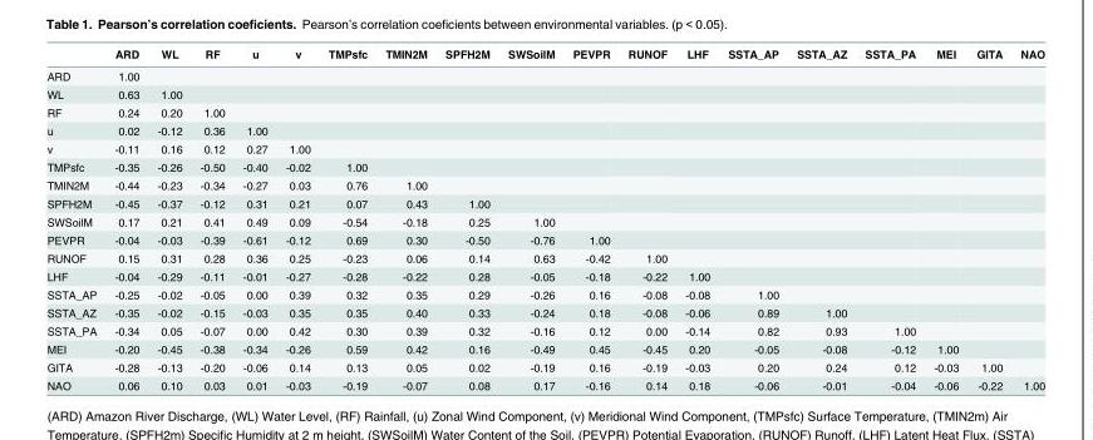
<table><thead><tr><td></td><td>ARD</td><td>WL</td><td>RF</td><td>u</td><td>v</td><td>TMPsfc</td><td>TMIN2M</td><td>SPFH2M</td><td>SWSoilM</td><td>PEVPR</td><td>RUNOF</td><td>LHF</td><td>SSTA_AP</td><td>SSTA_AZ</td><td>SSTA_PA</td><td>MEI</td><td>GITA</td><td>NAO</td></tr></thead><tbody><tr><td>ARD</td><td>1.00</td><td></td><td></td><td></td><td></td><td></td><td></td><td></td><td></td><td></td><td></td><td></td><td></td><td></td><td></td><td></td><td></td><td></td></tr><tr><td>WL</td><td>0.63</td><td>1.00</td><td></td><td></td><td></td><td></td><td></td><td></td><td></td><td></td><td></td><td></td><td></td><td></td><td></td><td></td><td></td><td></td></tr><tr><td>RF</td><td>0.24</td><td>0.20</td><td>1.00</td><td></td><td></td><td></td><td></td><td></td><td></td><td></td><td></td><td></td><td></td><td></td><td></td><td></td><td></td><td></td></tr><tr><td>u</td><td>0.02</td><td>-0.12</td><td>0.36</td><td>1.00</td><td></td><td></td><td></td><td></td><td></td><td></td><td></td><td></td><td></td><td></td><td></td><td></td><td></td><td></td></tr><tr><td>v</td><td>-0.11</td><td>0.16</td><td>0.12</td><td>0.27</td><td>1.00</td><td></td><td></td><td></td><td></td><td></td><td></td><td></td><td></td><td></td><td></td><td></td><td></td><td></td></tr><tr><td>TMPsfc</td><td>-0.35</td><td>-0.26</td><td>-0.50</td><td>-0.40</td><td>-0.02</td><td>1.00</td><td></td><td></td><td></td><td></td><td></td><td></td><td></td><td></td><td></td><td></td><td></td><td></td></tr><tr><td>TMIN2M</td><td>-0.44</td><td>-0.23</td><td>-0.34</td><td>-0.27</td><td>0.03</td><td>0.76</td><td>1.00</td><td></td><td></td><td></td><td></td><td></td><td></td><td></td><td></td><td></td><td></td><td></td></tr><tr><td>SPFH2M</td><td>-0.45</td><td>-0.37</td><td>-0.12</td><td>0.31</td><td>0.21</td><td>0.07</td><td>0.43</td><td>1.00</td><td></td><td></td><td></td><td></td><td></td><td></td><td></td><td></td><td></td><td></td></tr><tr><td>SWSoilM</td><td>0.17</td><td>0.21</td><td>0.41</td><td>0.49</td><td>0.09</td><td>-0.54</td><td>-0.18</td><td>0.25</td><td>1.00</td><td></td><td></td><td></td><td></td><td></td><td></td><td></td><td></td><td></td></tr><tr><td>PEVPR</td><td>-0.04</td><td>-0.03</td><td>-0.39</td><td>-0.61</td><td>-0.12</td><td>0.69</td><td>0.30</td><td>-0.50</td><td>-0.76</td><td>1.00</td><td></td><td></td><td></td><td></td><td></td><td></td><td></td><td></td></tr><tr><td>RUNOF</td><td>0.15</td><td>0.31</td><td>0.28</td><td>0.36</td><td>0.25</td><td>-0.23</td><td>0.06</td><td>0.14</td><td>0.63</td><td>-0.42</td><td>1.00</td><td></td><td></td><td></td><td></td><td></td><td></td><td></td></tr><tr><td>LHF</td><td>-0.04</td><td>-0.29</td><td>-0.11</td><td>-0.01</td><td>-0.27</td><td>-0.28</td><td>-0.22</td><td>0.28</td><td>-0.05</td><td>-0.18</td><td>-0.22</td><td>1.00</td><td></td><td></td><td></td><td></td><td></td><td></td></tr><tr><td>SSTA_AP</td><td>-0.25</td><td>-0.02</td><td>-0.05</td><td>0.00</td><td>0.39</td><td>0.32</td><td>0.35</td><td>0.29</td><td>-0.26</td><td>0.16</td><td>-0.08</td><td>-0.08</td><td>1.00</td><td></td><td></td><td></td><td></td><td></td></tr><tr><td>SSTA_AZ</td><td>-0.35</td><td>-0.02</td><td>-0.15</td><td>-0.03</td><td>0.35</td><td>0.35</td><td>0.40</td><td>0.33</td><td>-0.24</td><td>0.18</td><td>-0.08</td><td>-0.06</td><td>0.89</td><td>1.00</td><td></td><td></td><td></td><td></td></tr><tr><td>SSTA_PA</td><td>-0.34</td><td>0.05</td><td>-0.07</td><td>0.00</td><td>0.42</td><td>0.30</td><td>0.39</td><td>0.32</td><td>-0.16</td><td>0.12</td><td>0.00</td><td>-0.14</td><td>0.82</td><td>0.93</td><td>1.00</td><td></td><td></td><td></td></tr><tr><td>MEI</td><td>-0.20</td><td>-0.45</td><td>-0.38</td><td>-0.34</td><td>-0.26</td><td>0.59</td><td>0.42</td><td>0.16</td><td>-0.49</td><td>0.45</td><td>-0.45</td><td>0.20</td><td>-0.05</td><td>-0.08</td><td>-0.12</td><td>1.00</td><td></td><td></td></tr><tr><td>GITA</td><td>-0.28</td><td>-0.13</td><td>-0.20</td><td>-0.06</td><td>0.14</td><td>0.13</td><td>0.05</td><td>0.02</td><td>-0.19</td><td>0.16</td><td>-0.19</td><td>-0.03</td><td>0.20</td><td>0.24</td><td>0.12</td><td>-0.03</td><td>1.00</td><td></td></tr><tr><td>NAO</td><td>0.06</td><td>0.10</td><td>0.03</td><td>0.01</td><td>-0.03</td><td>-0.19</td><td>-0.07</td><td>0.08</td><td>0.17</td><td>-0.16</td><td>0.14</td><td>0.18</td><td>-0.06</td><td>-0.01</td><td>-0.04</td><td>-0.06</td><td>-0.22</td><td>1.00</td></tr></tbody></table>